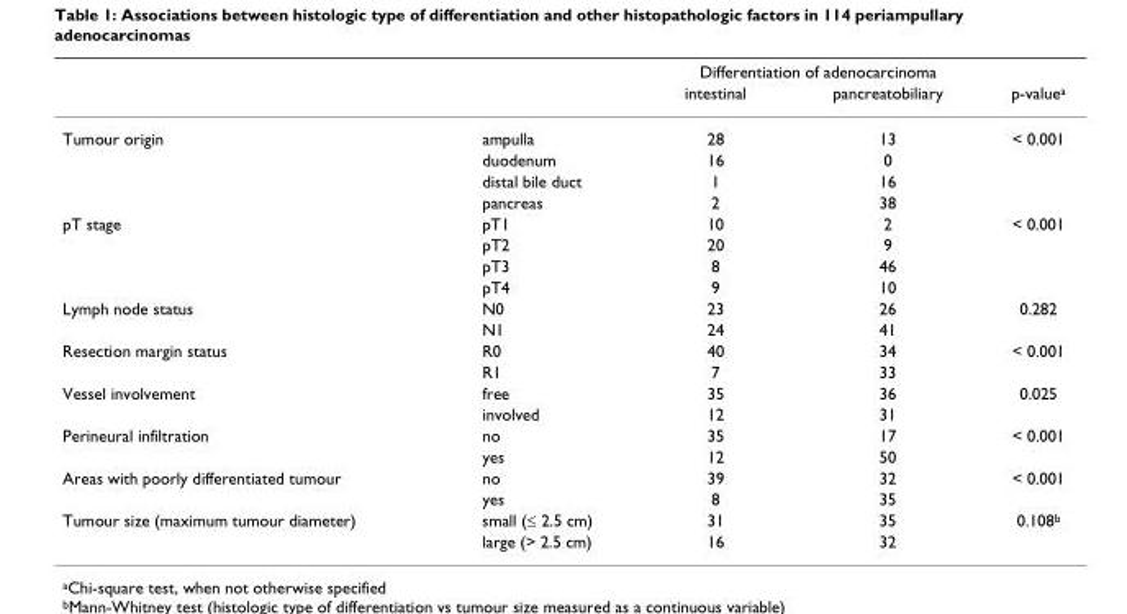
<table><thead><tr><td rowspan="2"></td><td rowspan="2"></td><td colspan="2">Differentiation of adenocarcinoma</td><td rowspan="2">p-value<sup>a</sup></td></tr><tr><td>intestinal</td><td>pancreatobiliary</td></tr></thead><tbody><tr><td rowspan="4">Tumour origin</td><td>ampulla</td><td>28</td><td>13</td><td>&lt; 0.001</td></tr><tr><td>duodenum</td><td>16</td><td>0</td><td></td></tr><tr><td>distal bile duct</td><td>1</td><td>16</td><td></td></tr><tr><td>pancreas</td><td>2</td><td>38</td><td></td></tr><tr><td rowspan="4">pT stage</td><td>pT1</td><td>10</td><td>2</td><td>&lt; 0.001</td></tr><tr><td>pT2</td><td>20</td><td>9</td><td></td></tr><tr><td>pT3</td><td>8</td><td>46</td><td></td></tr><tr><td>pT4</td><td>9</td><td>10</td><td></td></tr><tr><td rowspan="2">Lymph node status</td><td>N0</td><td>23</td><td>26</td><td>0.282</td></tr><tr><td>N1</td><td>24</td><td>41</td><td></td></tr><tr><td rowspan="2">Resection margin status</td><td>R0</td><td>40</td><td>34</td><td>&lt; 0.001</td></tr><tr><td>R1</td><td>7</td><td>33</td><td></td></tr><tr><td rowspan="2">Vessel involvement</td><td>free</td><td>35</td><td>36</td><td>0.025</td></tr><tr><td>involved</td><td>12</td><td>31</td><td></td></tr><tr><td rowspan="2">Perineural infiltration</td><td>no</td><td>35</td><td>17</td><td>&lt; 0.001</td></tr><tr><td>yes</td><td>12</td><td>50</td><td></td></tr><tr><td rowspan="2">Areas with poorly differentiated tumour</td><td>no</td><td>39</td><td>32</td><td>&lt; 0.001</td></tr><tr><td>yes</td><td>8</td><td>35</td><td></td></tr><tr><td rowspan="2">Tumour size (maximum tumour diameter)</td><td>small (≤ 2.5 cm)</td><td>31</td><td>35</td><td>0.108<sup>b</sup></td></tr><tr><td>large (&gt; 2.5 cm)</td><td>16</td><td>32</td><td></td></tr></tbody></table>